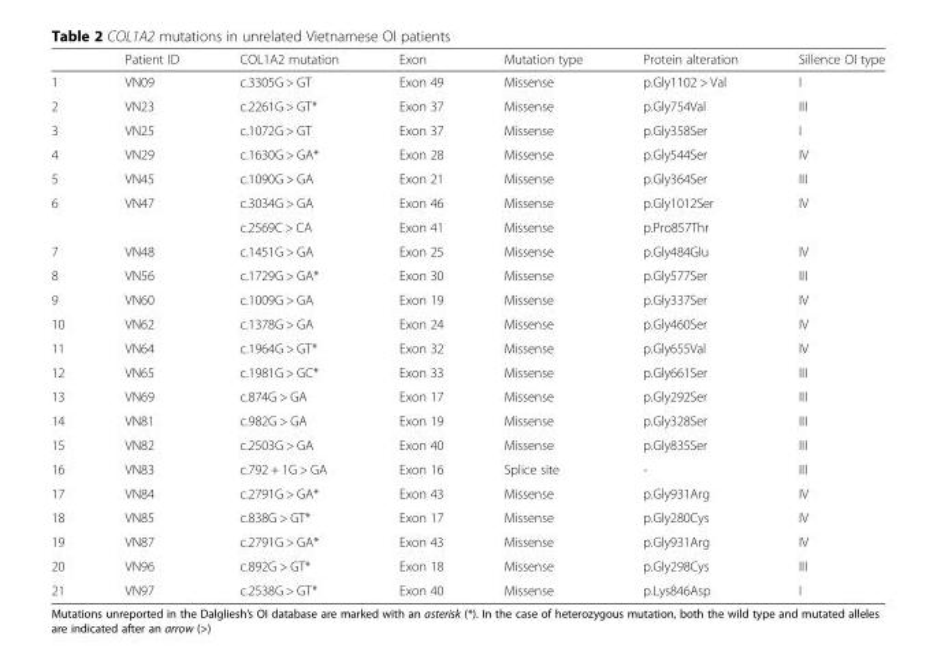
<table><thead><tr><td></td><td>Patient ID</td><td>COL1A2 mutation</td><td>Exon</td><td>Mutation type</td><td>Protein alteration</td><td>Sillence OI type</td></tr></thead><tbody><tr><td>1</td><td>VN09</td><td>c.3305G &gt; GT</td><td>Exon 49</td><td>Missense</td><td>p.Gly1102 &gt; Val</td><td>I</td></tr><tr><td>2</td><td>VN23</td><td>c.2261G &gt; GT*</td><td>Exon 37</td><td>Missense</td><td>p.Gly754Val</td><td>III</td></tr><tr><td>3</td><td>VN25</td><td>c.1072G &gt; GT</td><td>Exon 37</td><td>Missense</td><td>p.Gly358Ser</td><td>I</td></tr><tr><td>4</td><td>VN29</td><td>c.1630G &gt; GA*</td><td>Exon 28</td><td>Missense</td><td>p.Gly544Ser</td><td>IV</td></tr><tr><td>5</td><td>VN45</td><td>c.1090G &gt; GA</td><td>Exon 21</td><td>Missense</td><td>p.Gly364Ser</td><td>III</td></tr><tr><td rowspan="2">6</td><td rowspan="2">VN47</td><td>c.3034G &gt; GA</td><td>Exon 46</td><td>Missense</td><td>p.Gly1012Ser</td><td rowspan="2">IV</td></tr><tr><td>c.2569C &gt; CA</td><td>Exon 41</td><td>Missense</td><td>p.Pro857Thr</td></tr><tr><td>7</td><td>VN48</td><td>c.1451G &gt; GA</td><td>Exon 25</td><td>Missense</td><td>p.Gly484Glu</td><td>IV</td></tr><tr><td>8</td><td>VN56</td><td>c.1729G &gt; GA*</td><td>Exon 30</td><td>Missense</td><td>p.Gly577Ser</td><td>III</td></tr><tr><td>9</td><td>VN60</td><td>c.1009G &gt; GA</td><td>Exon 19</td><td>Missense</td><td>p.Gly337Ser</td><td>IV</td></tr><tr><td>10</td><td>VN62</td><td>c.1378G &gt; GA</td><td>Exon 24</td><td>Missense</td><td>p.Gly460Ser</td><td>IV</td></tr><tr><td>11</td><td>VN64</td><td>c.1964G &gt; GT*</td><td>Exon 32</td><td>Missense</td><td>p.Gly655Val</td><td>IV</td></tr><tr><td>12</td><td>VN65</td><td>c.1981G &gt; GC*</td><td>Exon 33</td><td>Missense</td><td>p.Gly661Ser</td><td>III</td></tr><tr><td>13</td><td>VN69</td><td>c.874G &gt; GA</td><td>Exon 17</td><td>Missense</td><td>p.Gly292Ser</td><td>III</td></tr><tr><td>14</td><td>VN81</td><td>c.982G &gt; GA</td><td>Exon 19</td><td>Missense</td><td>p.Gly328Ser</td><td>III</td></tr><tr><td>15</td><td>VN82</td><td>c.2503G &gt; GA</td><td>Exon 40</td><td>Missense</td><td>p.Gly835Ser</td><td>III</td></tr><tr><td>16</td><td>VN83</td><td>c.792 + 1G &gt; GA</td><td>Exon 16</td><td>Splice site</td><td>-</td><td>III</td></tr><tr><td>17</td><td>VN84</td><td>c.2791G &gt; GA*</td><td>Exon 43</td><td>Missense</td><td>p.Gly931Arg</td><td>IV</td></tr><tr><td>18</td><td>VN85</td><td>c.838G &gt; GT*</td><td>Exon 17</td><td>Missense</td><td>p.Gly280Cys</td><td>IV</td></tr><tr><td>19</td><td>VN87</td><td>c.2791G &gt; GA*</td><td>Exon 43</td><td>Missense</td><td>p.Gly931Arg</td><td>IV</td></tr><tr><td>20</td><td>VN96</td><td>c.892G &gt; GT*</td><td>Exon 18</td><td>Missense</td><td>p.Gly298Cys</td><td>III</td></tr><tr><td>21</td><td>VN97</td><td>c.2538G &gt; GT*</td><td>Exon 40</td><td>Missense</td><td>p.Lys846Asp</td><td>I</td></tr></tbody></table>